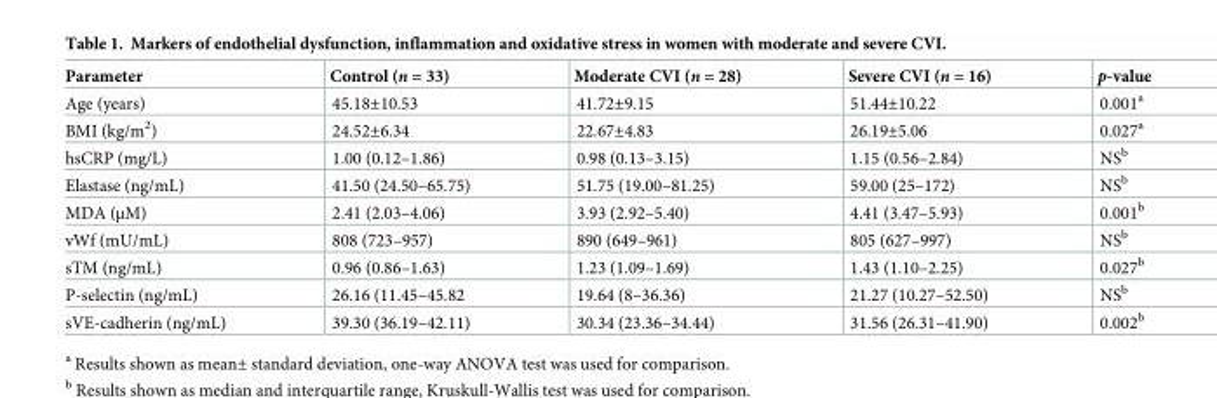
<table><thead><tr><td>Parameter</td><td>Control (n = 33)</td><td>Moderate CVI (n = 28)</td><td>Severe CVI (n = 16)</td><td>p-value</td></tr></thead><tbody><tr><td>Age (years)</td><td>45.18±10.53</td><td>41.72±9.15</td><td>51.44±10.22</td><td>0.001<sup>a</sup></td></tr><tr><td>BMI (kg/m<sup>2</sup>)</td><td>24.52±6.34</td><td>22.67±4.83</td><td>26.19±5.06</td><td>0.027<sup>a</sup></td></tr><tr><td>hsCRP (mg/L)</td><td>1.00 (0.12–1.86)</td><td>0.98 (0.13–3.15)</td><td>1.15 (0.56–2.84)</td><td>NS<sup>b</sup></td></tr><tr><td>Elastase (ng/mL)</td><td>41.50 (24.50–65.75)</td><td>51.75 (19.00–81.25)</td><td>59.00 (25–172)</td><td>NS<sup>b</sup></td></tr><tr><td>MDA (μM)</td><td>2.41 (2.03–4.06)</td><td>3.93 (2.92–5.40)</td><td>4.41 (3.47–5.93)</td><td>0.001<sup>b</sup></td></tr><tr><td>vWf (mU/mL)</td><td>808 (723–957)</td><td>890 (649–961)</td><td>805 (627–997)</td><td>NS<sup>b</sup></td></tr><tr><td>sTM (ng/mL)</td><td>0.96 (0.86–1.63)</td><td>1.23 (1.09–1.69)</td><td>1.43 (1.10–2.25)</td><td>0.027<sup>b</sup></td></tr><tr><td>P-selectin (ng/mL)</td><td>26.16 (11.45–45.82</td><td>19.64 (8–36.36)</td><td>21.27 (10.27–52.50)</td><td>NS<sup>b</sup></td></tr><tr><td>sVE-cadherin (ng/mL)</td><td>39.30 (36.19–42.11)</td><td>30.34 (23.36–34.44)</td><td>31.56 (26.31–41.90)</td><td>0.002<sup>b</sup></td></tr></tbody></table>